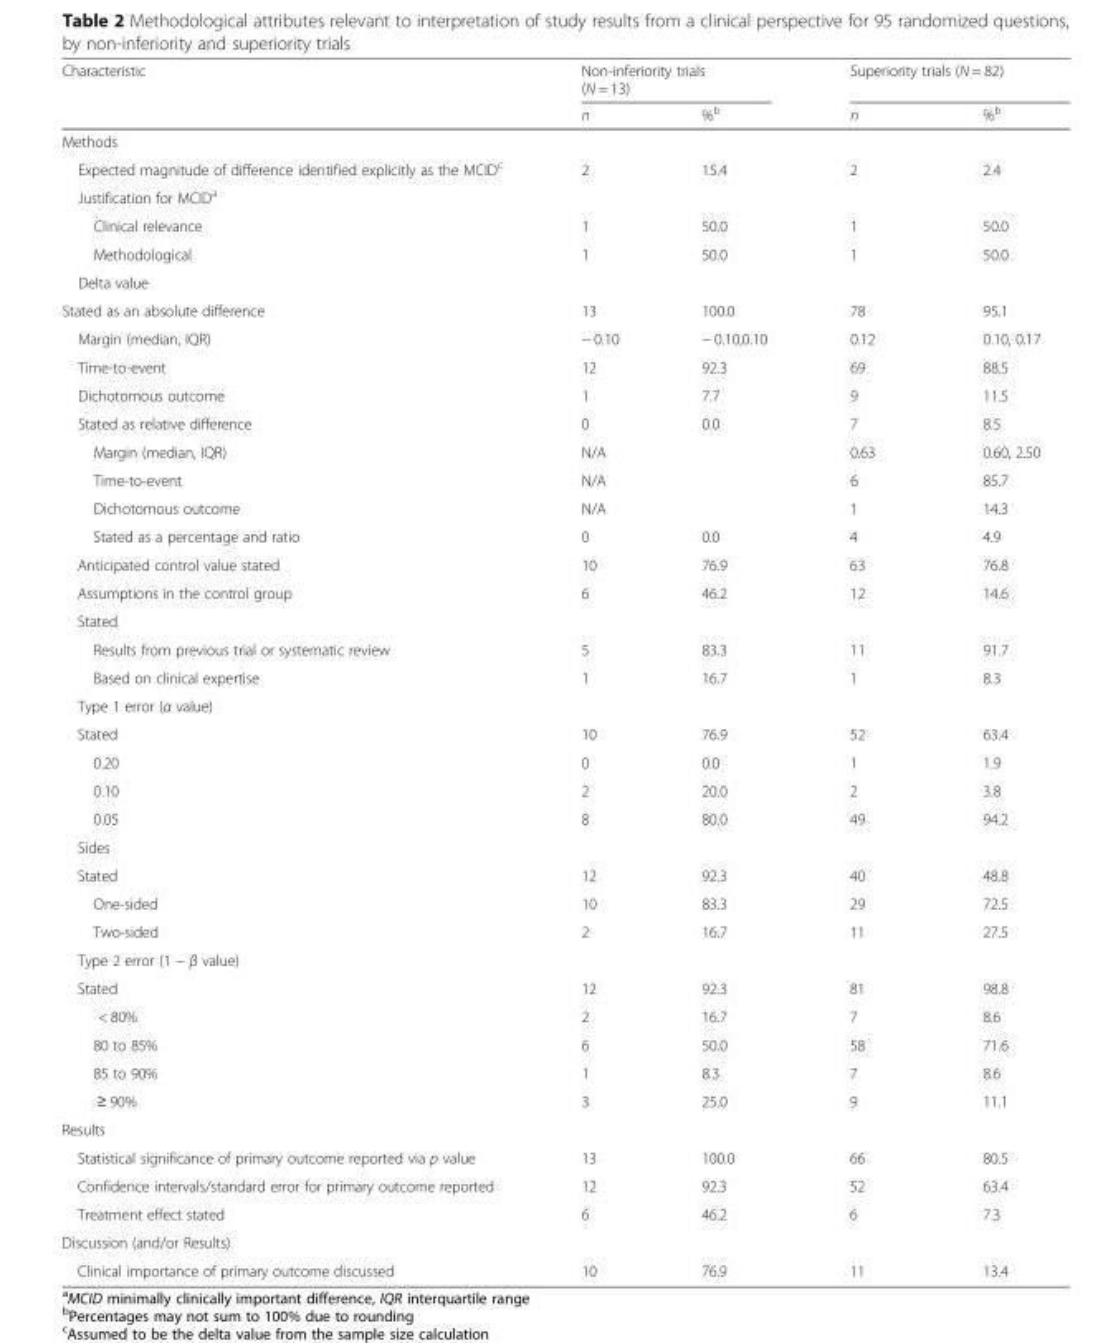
<table><thead><tr><td rowspan="2">Characteristic</td><td colspan="2">Non-inferiority trials (N = 13)</td><td colspan="2">Superiority trials (N = 82)</td></tr><tr><td>n</td><td>%<sup>b</sup></td><td>n</td><td>%<sup>b</sup></td></tr></thead><tbody><tr><td colspan="5">Methods</td></tr><tr><td>Expected magnitude of difference identified explicitly as the MCID<sup>c</sup></td><td>2</td><td>15.4</td><td>2</td><td>2.4</td></tr><tr><td colspan="5">Justification for MCID<sup>a</sup></td></tr><tr><td>Clinical relevance</td><td>1</td><td>50.0</td><td>1</td><td>50.0</td></tr><tr><td>Methodological</td><td>1</td><td>50.0</td><td>1</td><td>50.0</td></tr><tr><td colspan="5">Delta value</td></tr><tr><td>Stated as an absolute difference</td><td>13</td><td>100.0</td><td>78</td><td>95.1</td></tr><tr><td>Margin (median, IQR)</td><td>− 0.10</td><td>− 0.10,0.10</td><td>0.12</td><td>0.10, 0.17</td></tr><tr><td>Time-to-event</td><td>12</td><td>92.3</td><td>69</td><td>88.5</td></tr><tr><td>Dichotomous outcome</td><td>1</td><td>7.7</td><td>9</td><td>11.5</td></tr><tr><td>Stated as relative difference</td><td>0</td><td>0.0</td><td>7</td><td>8.5</td></tr><tr><td>Margin (median, IQR)</td><td colspan="2">N/A</td><td>0.63</td><td>0.60, 2.50</td></tr><tr><td>Time-to-event</td><td colspan="2">N/A</td><td>6</td><td>85.7</td></tr><tr><td>Dichotomous outcome</td><td colspan="2">N/A</td><td>1</td><td>14.3</td></tr><tr><td>Stated as a percentage and ratio</td><td>0</td><td>0.0</td><td>4</td><td>4.9</td></tr><tr><td>Anticipated control value stated</td><td>10</td><td>76.9</td><td>63</td><td>76.8</td></tr><tr><td>Assumptions in the control group</td><td>6</td><td>46.2</td><td>12</td><td>14.6</td></tr><tr><td colspan="5">Stated</td></tr><tr><td>Results from previous trial or systematic review</td><td>5</td><td>83.3</td><td>11</td><td>91.7</td></tr><tr><td>Based on clinical expertise</td><td>1</td><td>16.7</td><td>1</td><td>8.3</td></tr><tr><td colspan="5">Type 1 error (α value)</td></tr><tr><td>Stated</td><td>10</td><td>76.9</td><td>52</td><td>63.4</td></tr><tr><td>0.20</td><td>0</td><td>0.0</td><td>1</td><td>1.9</td></tr><tr><td>0.10</td><td>2</td><td>20.0</td><td>2</td><td>3.8</td></tr><tr><td>0.05</td><td>8</td><td>80.0</td><td>49</td><td>94.2</td></tr><tr><td colspan="5">Sides</td></tr><tr><td>Stated</td><td>12</td><td>92.3</td><td>40</td><td>48.8</td></tr><tr><td>One-sided</td><td>10</td><td>83.3</td><td>29</td><td>72.5</td></tr><tr><td>Two-sided</td><td>2</td><td>16.7</td><td>11</td><td>27.5</td></tr><tr><td colspan="5">Type 2 error (1 − β value)</td></tr><tr><td>Stated</td><td>12</td><td>92.3</td><td>81</td><td>98.8</td></tr><tr><td>&lt; 80%</td><td>2</td><td>16.7</td><td>7</td><td>8.6</td></tr><tr><td>80 to 85%</td><td>6</td><td>50.0</td><td>58</td><td>71.6</td></tr><tr><td>85 to 90%</td><td>1</td><td>8.3</td><td>7</td><td>8.6</td></tr><tr><td>≥ 90%</td><td>3</td><td>25.0</td><td>9</td><td>11.1</td></tr><tr><td colspan="5">Results</td></tr><tr><td>Statistical significance of primary outcome reported via p value</td><td>13</td><td>100.0</td><td>66</td><td>80.5</td></tr><tr><td>Confidence intervals/standard error for primary outcome reported</td><td>12</td><td>92.3</td><td>52</td><td>63.4</td></tr><tr><td>Treatment effect stated</td><td>6</td><td>46.2</td><td>6</td><td>7.3</td></tr><tr><td colspan="5">Discussion (and/or Results)</td></tr><tr><td>Clinical importance of primary outcome discussed</td><td>10</td><td>76.9</td><td>11</td><td>13.4</td></tr></tbody></table>